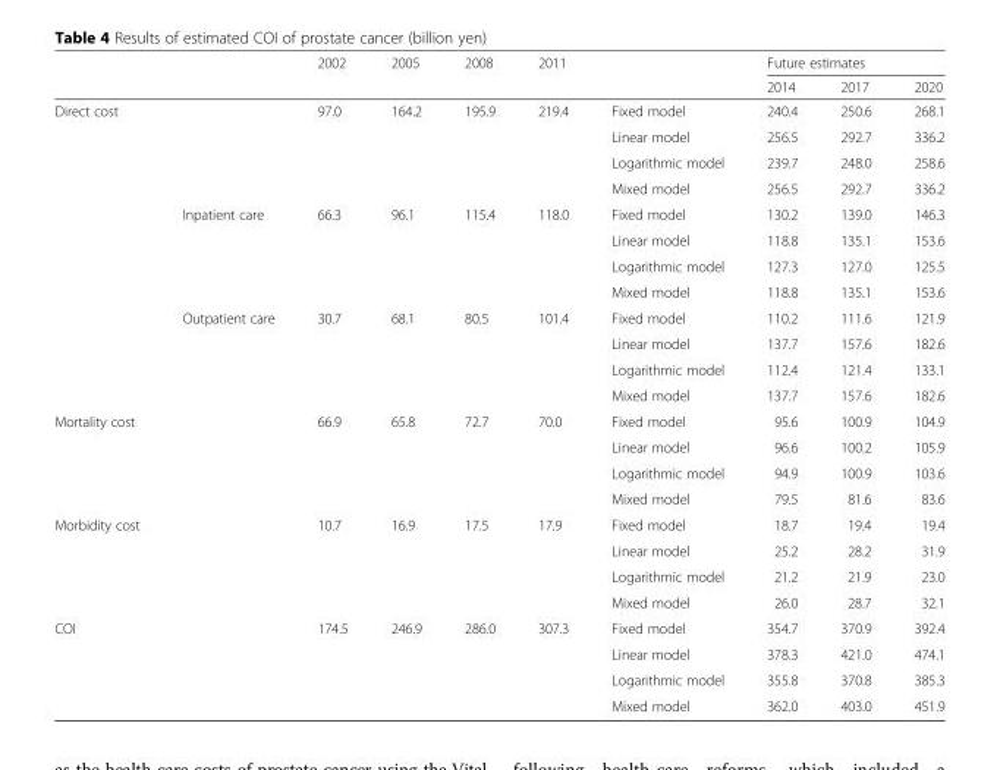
<table><thead><tr><td rowspan="2"></td><td rowspan="2"></td><td rowspan="2">2002</td><td rowspan="2">2005</td><td rowspan="2">2008</td><td rowspan="2">2011</td><td rowspan="2"></td><td colspan="3">Future estimates</td></tr><tr><td>2014</td><td>2017</td><td>2020</td></tr></thead><tbody><tr><td rowspan="12">Direct cost</td><td rowspan="4"></td><td rowspan="4">97.0</td><td rowspan="4">164.2</td><td rowspan="4">195.9</td><td rowspan="4">219.4</td><td>Fixed model</td><td>240.4</td><td>250.6</td><td>268.1</td></tr><tr><td>Linear model</td><td>256.5</td><td>292.7</td><td>336.2</td></tr><tr><td>Logarithmic model</td><td>239.7</td><td>248.0</td><td>258.6</td></tr><tr><td>Mixed model</td><td>256.5</td><td>292.7</td><td>336.2</td></tr><tr><td rowspan="4">Inpatient care</td><td rowspan="4">66.3</td><td rowspan="4">96.1</td><td rowspan="4">115.4</td><td rowspan="4">118.0</td><td>Fixed model</td><td>130.2</td><td>139.0</td><td>146.3</td></tr><tr><td>Linear model</td><td>118.8</td><td>135.1</td><td>153.6</td></tr><tr><td>Logarithmic model</td><td>127.3</td><td>127.0</td><td>125.5</td></tr><tr><td>Mixed model</td><td>118.8</td><td>135.1</td><td>153.6</td></tr><tr><td rowspan="4">Outpatient care</td><td rowspan="4">30.7</td><td rowspan="4">68.1</td><td rowspan="4">80.5</td><td rowspan="4">101.4</td><td>Fixed model</td><td>110.2</td><td>111.6</td><td>121.9</td></tr><tr><td>Linear model</td><td>137.7</td><td>157.6</td><td>182.6</td></tr><tr><td>Logarithmic model</td><td>112.4</td><td>121.4</td><td>133.1</td></tr><tr><td>Mixed model</td><td>137.7</td><td>157.6</td><td>182.6</td></tr><tr><td rowspan="4">Mortality cost</td><td rowspan="4"></td><td rowspan="4">66.9</td><td rowspan="4">65.8</td><td rowspan="4">72.7</td><td rowspan="4">70.0</td><td>Fixed model</td><td>95.6</td><td>100.9</td><td>104.9</td></tr><tr><td>Linear model</td><td>96.6</td><td>100.2</td><td>105.9</td></tr><tr><td>Logarithmic model</td><td>94.9</td><td>100.9</td><td>103.6</td></tr><tr><td>Mixed model</td><td>79.5</td><td>81.6</td><td>83.6</td></tr><tr><td rowspan="4">Morbidity cost</td><td rowspan="4"></td><td rowspan="4">10.7</td><td rowspan="4">16.9</td><td rowspan="4">17.5</td><td rowspan="4">17.9</td><td>Fixed model</td><td>18.7</td><td>19.4</td><td>19.4</td></tr><tr><td>Linear model</td><td>25.2</td><td>28.2</td><td>31.9</td></tr><tr><td>Logarithmic model</td><td>21.2</td><td>21.9</td><td>23.0</td></tr><tr><td>Mixed model</td><td>26.0</td><td>28.7</td><td>32.1</td></tr><tr><td rowspan="4">COI</td><td rowspan="4"></td><td rowspan="4">174.5</td><td rowspan="4">246.9</td><td rowspan="4">286.0</td><td rowspan="4">307.3</td><td>Fixed model</td><td>354.7</td><td>370.9</td><td>392.4</td></tr><tr><td>Linear model</td><td>378.3</td><td>421.0</td><td>474.1</td></tr><tr><td>Logarithmic model</td><td>355.8</td><td>370.8</td><td>385.3</td></tr><tr><td>Mixed model</td><td>362.0</td><td>403.0</td><td>451.9</td></tr></tbody></table>